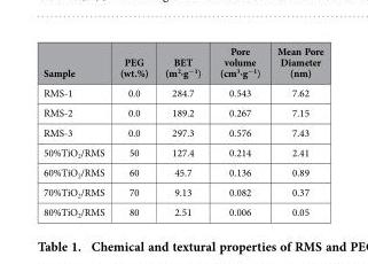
<table><thead><tr><td>Sample</td><td>PEG (wt.%)</td><td>BET (m<sup>2</sup>·g<sup>−1</sup>)</td><td>Pore volume (cm<sup>3</sup>·g<sup>−1</sup>)</td><td>Mean Pore Diameter (nm)</td></tr></thead><tbody><tr><td>RMS-1</td><td>0.0</td><td>284.7</td><td>0.543</td><td>7.62</td></tr><tr><td>RMS-2</td><td>0.0</td><td>189.2</td><td>0.267</td><td>7.15</td></tr><tr><td>RMS-3</td><td>0.0</td><td>297.3</td><td>0.576</td><td>7.43</td></tr><tr><td>50%TiO<sub>2</sub>/RMS</td><td>50</td><td>127.4</td><td>0.214</td><td>2.41</td></tr><tr><td>60%TiO<sub>2</sub>/RMS</td><td>60</td><td>45.7</td><td>0.136</td><td>0.89</td></tr><tr><td>70%TiO<sub>2</sub>/RMS</td><td>70</td><td>9.13</td><td>0.082</td><td>0.37</td></tr><tr><td>80%TiO<sub>2</sub>/RMS</td><td>80</td><td>2.51</td><td>0.006</td><td>0.05</td></tr></tbody></table>